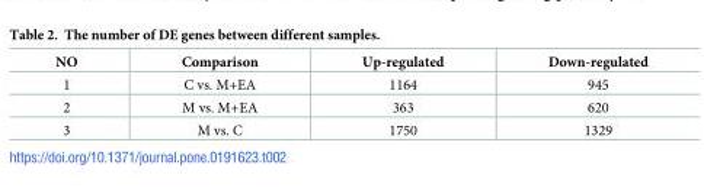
<table><thead><tr><td>NO</td><td>Comparison</td><td>Up-regulated</td><td>Down-regulated</td></tr></thead><tbody><tr><td>1</td><td>C vs. M+EA</td><td>1164</td><td>945</td></tr><tr><td>2</td><td>M vs. M+EA</td><td>363</td><td>620</td></tr><tr><td>3</td><td>M vs. C</td><td>1750</td><td>1329</td></tr></tbody></table>